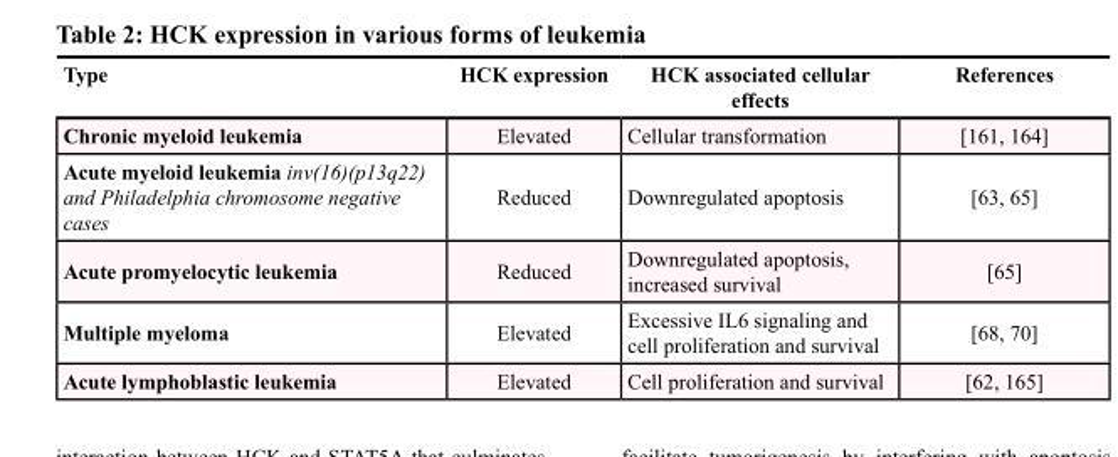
<table><thead><tr><td>Type</td><td>HCK expression</td><td>HCK associated cellular effects</td><td>References</td></tr></thead><tbody><tr><td>Chronic myeloid leukemia</td><td>Elevated</td><td>Cellular transformation</td><td>[161, 164]</td></tr><tr><td>Acute myeloid leukemia inv(16)(p13q22) and Philadelphia chromosome negative cases</td><td>Reduced</td><td>Downregulated apoptosis</td><td>[63, 65]</td></tr><tr><td>Acute promyelocytic leukemia</td><td>Reduced</td><td>Downregulated apoptosis, increased survival</td><td>[65]</td></tr><tr><td>Multiple myeloma</td><td>Elevated</td><td>Excessive IL6 signaling and cell proliferation and survival</td><td>[68, 70]</td></tr><tr><td>Acute lymphoblastic leukemia</td><td>Elevated</td><td>Cell proliferation and survival</td><td>[62, 165]</td></tr></tbody></table>